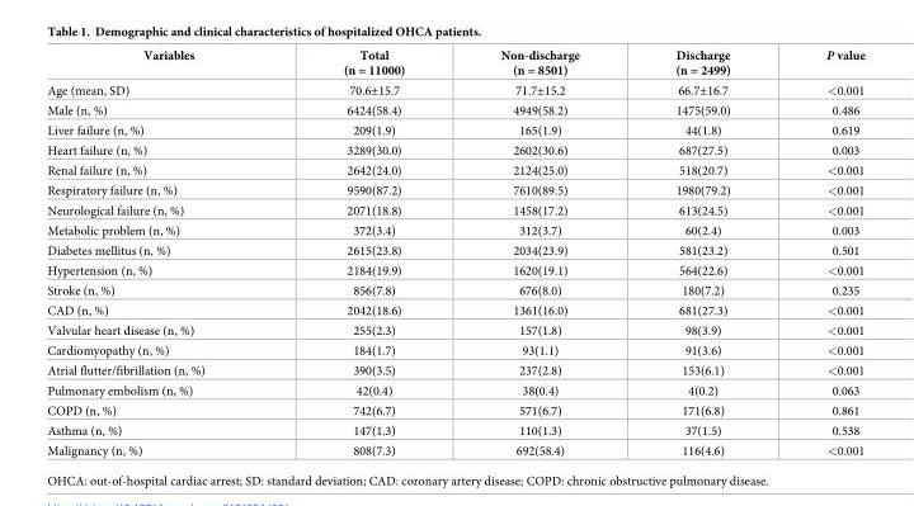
<table><thead><tr><td>Variables</td><td>Total (n = 11000)</td><td>Non-discharge (n = 8501)</td><td>Discharge (n = 2499)</td><td>P value</td></tr></thead><tbody><tr><td>Age (mean, SD)</td><td>70.6±15.7</td><td>71.7±15.2</td><td>66.7±16.7</td><td>&lt;0.001</td></tr><tr><td>Male (n, %)</td><td>6424(58.4)</td><td>4949(58.2)</td><td>1475(59.0)</td><td>0.486</td></tr><tr><td>Liver failure (n, %)</td><td>209(1.9)</td><td>165(1.9)</td><td>44(1.8)</td><td>0.619</td></tr><tr><td>Heart failure (n, %)</td><td>3289(30.0)</td><td>2602(30.6)</td><td>687(27.5)</td><td>0.003</td></tr><tr><td>Renal failure (n, %)</td><td>2642(24.0)</td><td>2124(25.0)</td><td>518(20.7)</td><td>&lt;0.001</td></tr><tr><td>Respiratory failure (n, %)</td><td>9590(87.2)</td><td>7610(89.5)</td><td>1980(79.2)</td><td>&lt;0.001</td></tr><tr><td>Neurological failure (n, %)</td><td>2071(18.8)</td><td>1458(17.2)</td><td>613(24.5)</td><td>&lt;0.001</td></tr><tr><td>Metabolic problem (n, %)</td><td>372(3.4)</td><td>312(3.7)</td><td>60(2.4)</td><td>0.003</td></tr><tr><td>Diabetes mellitus (n, %)</td><td>2615(23.8)</td><td>2034(23.9)</td><td>581(23.2)</td><td>0.501</td></tr><tr><td>Hypertension (n, %)</td><td>2184(19.9)</td><td>1620(19.1)</td><td>564(22.6)</td><td>&lt;0.001</td></tr><tr><td>Stroke (n, %)</td><td>856(7.8)</td><td>676(8.0)</td><td>180(7.2)</td><td>0.235</td></tr><tr><td>CAD (n, %)</td><td>2042(18.6)</td><td>1361(16.0)</td><td>681(27.3)</td><td>&lt;0.001</td></tr><tr><td>Valvular heart disease (n, %)</td><td>255(2.3)</td><td>157(1.8)</td><td>98(3.9)</td><td>&lt;0.001</td></tr><tr><td>Cardiomyopathy (n, %)</td><td>184(1.7)</td><td>93(1.1)</td><td>91(3.6)</td><td>&lt;0.001</td></tr><tr><td>Atrial flutter/fibrillation (n, %)</td><td>390(3.5)</td><td>237(2.8)</td><td>153(6.1)</td><td>&lt;0.001</td></tr><tr><td>Pulmonary embolism (n, %)</td><td>42(0.4)</td><td>38(0.4)</td><td>4(0.2)</td><td>0.063</td></tr><tr><td>COPD (n, %)</td><td>742(6.7)</td><td>571(6.7)</td><td>171(6.8)</td><td>0.861</td></tr><tr><td>Asthma (n, %)</td><td>147(1.3)</td><td>110(1.3)</td><td>37(1.5)</td><td>0.538</td></tr><tr><td>Malignancy (n, %)</td><td>808(7.3)</td><td>692(58.4)</td><td>116(4.6)</td><td>&lt;0.001</td></tr></tbody></table>